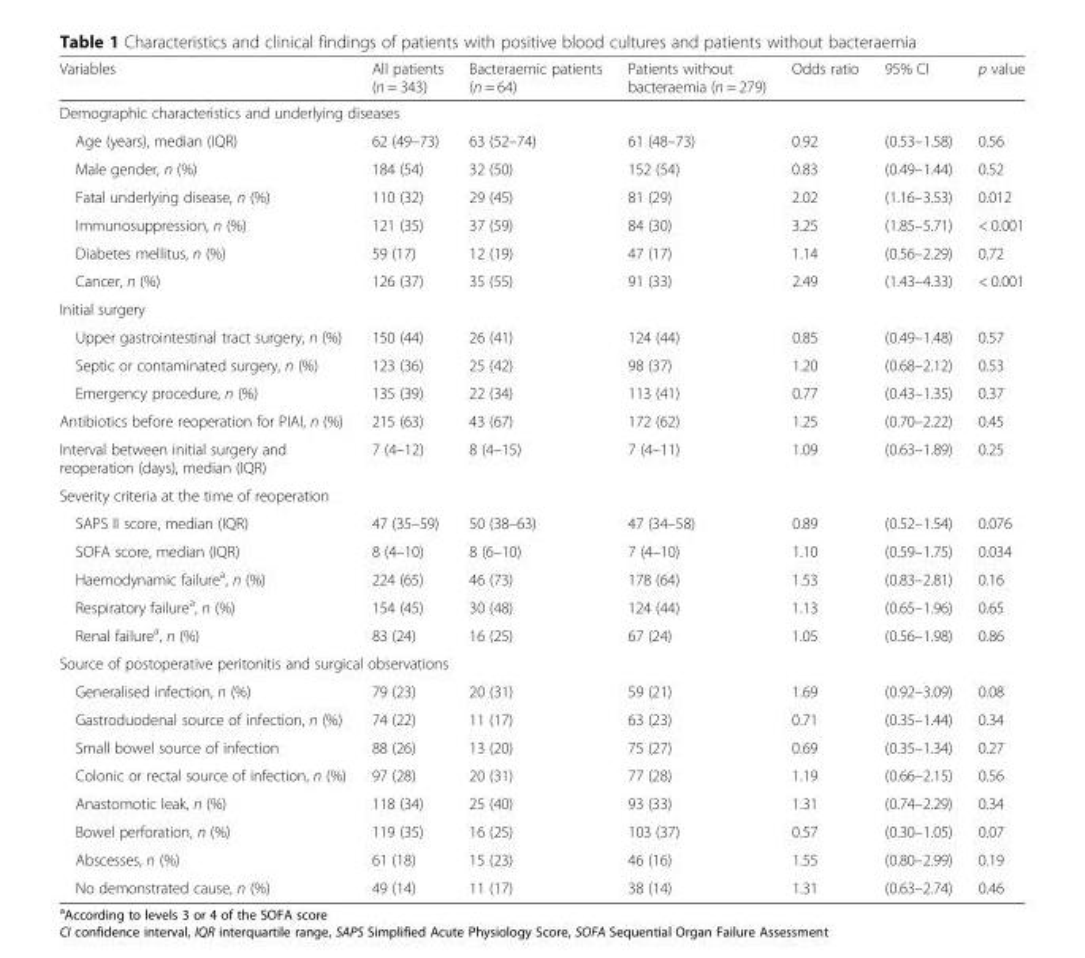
<table><thead><tr><td>Variables</td><td>All patients (n = 343)</td><td>Bacteraemic patients (n = 64)</td><td>Patients without bacteraemia (n = 279)</td><td>Odds ratio</td><td>95% CI</td><td>p value</td></tr></thead><tbody><tr><td colspan="7">Demographic characteristics and underlying diseases</td></tr><tr><td>Age (years), median (IQR)</td><td>62 (49–73)</td><td>63 (52–74)</td><td>61 (48–73)</td><td>0.92</td><td>(0.53–1.58)</td><td>0.56</td></tr><tr><td>Male gender, n (%)</td><td>184 (54)</td><td>32 (50)</td><td>152 (54)</td><td>0.83</td><td>(0.49–1.44)</td><td>0.52</td></tr><tr><td>Fatal underlying disease, n (%)</td><td>110 (32)</td><td>29 (45)</td><td>81 (29)</td><td>2.02</td><td>(1.16–3.53)</td><td>0.012</td></tr><tr><td>Immunosuppression, n (%)</td><td>121 (35)</td><td>37 (59)</td><td>84 (30)</td><td>3.25</td><td>(1.85–5.71)</td><td>&lt; 0.001</td></tr><tr><td>Diabetes mellitus, n (%)</td><td>59 (17)</td><td>12 (19)</td><td>47 (17)</td><td>1.14</td><td>(0.56–2.29)</td><td>0.72</td></tr><tr><td>Cancer, n (%)</td><td>126 (37)</td><td>35 (55)</td><td>91 (33)</td><td>2.49</td><td>(1.43–4.33)</td><td>&lt; 0.001</td></tr><tr><td colspan="7">Initial surgery</td></tr><tr><td>Upper gastrointestinal tract surgery, n (%)</td><td>150 (44)</td><td>26 (41)</td><td>124 (44)</td><td>0.85</td><td>(0.49–1.48)</td><td>0.57</td></tr><tr><td>Septic or contaminated surgery, n (%)</td><td>123 (36)</td><td>25 (42)</td><td>98 (37)</td><td>1.20</td><td>(0.68–2.12)</td><td>0.53</td></tr><tr><td>Emergency procedure, n (%)</td><td>135 (39)</td><td>22 (34)</td><td>113 (41)</td><td>0.77</td><td>(0.43–1.35)</td><td>0.37</td></tr><tr><td>Antibiotics before reoperation for PIAI, n (%)</td><td>215 (63)</td><td>43 (67)</td><td>172 (62)</td><td>1.25</td><td>(0.70–2.22)</td><td>0.45</td></tr><tr><td>Interval between initial surgery and reoperation (days), median (IQR)</td><td>7 (4–12)</td><td>8 (4–15)</td><td>7 (4–11)</td><td>1.09</td><td>(0.63–1.89)</td><td>0.25</td></tr><tr><td colspan="7">Severity criteria at the time of reoperation</td></tr><tr><td>SAPS II score, median (IQR)</td><td>47 (35–59)</td><td>50 (38–63)</td><td>47 (34–58)</td><td>0.89</td><td>(0.52–1.54)</td><td>0.076</td></tr><tr><td>SOFA score, median (IQR)</td><td>8 (4–10)</td><td>8 (6–10)</td><td>7 (4–10)</td><td>1.10</td><td>(0.59–1.75)</td><td>0.034</td></tr><tr><td>Haemodynamic failure<sup>a</sup>, n (%)</td><td>224 (65)</td><td>46 (73)</td><td>178 (64)</td><td>1.53</td><td>(0.83–2.81)</td><td>0.16</td></tr><tr><td>Respiratory failure<sup>a</sup>, n (%)</td><td>154 (45)</td><td>30 (48)</td><td>124 (44)</td><td>1.13</td><td>(0.65–1.96)</td><td>0.65</td></tr><tr><td>Renal failure<sup>a</sup>, n (%)</td><td>83 (24)</td><td>16 (25)</td><td>67 (24)</td><td>1.05</td><td>(0.56–1.98)</td><td>0.86</td></tr><tr><td colspan="7">Source of postoperative peritonitis and surgical observations</td></tr><tr><td>Generalised infection, n (%)</td><td>79 (23)</td><td>20 (31)</td><td>59 (21)</td><td>1.69</td><td>(0.92–3.09)</td><td>0.08</td></tr><tr><td>Gastroduodenal source of infection, n (%)</td><td>74 (22)</td><td>11 (17)</td><td>63 (23)</td><td>0.71</td><td>(0.35–1.44)</td><td>0.34</td></tr><tr><td>Small bowel source of infection</td><td>88 (26)</td><td>13 (20)</td><td>75 (27)</td><td>0.69</td><td>(0.35–1.34)</td><td>0.27</td></tr><tr><td>Colonic or rectal source of infection, n (%)</td><td>97 (28)</td><td>20 (31)</td><td>77 (28)</td><td>1.19</td><td>(0.66–2.15)</td><td>0.56</td></tr><tr><td>Anastomotic leak, n (%)</td><td>118 (34)</td><td>25 (40)</td><td>93 (33)</td><td>1.31</td><td>(0.74–2.29)</td><td>0.34</td></tr><tr><td>Bowel perforation, n (%)</td><td>119 (35)</td><td>16 (25)</td><td>103 (37)</td><td>0.57</td><td>(0.30–1.05)</td><td>0.07</td></tr><tr><td>Abscesses, n (%)</td><td>61 (18)</td><td>15 (23)</td><td>46 (16)</td><td>1.55</td><td>(0.80–2.99)</td><td>0.19</td></tr><tr><td>No demonstrated cause, n (%)</td><td>49 (14)</td><td>11 (17)</td><td>38 (14)</td><td>1.31</td><td>(0.63–2.74)</td><td>0.46</td></tr></tbody></table>